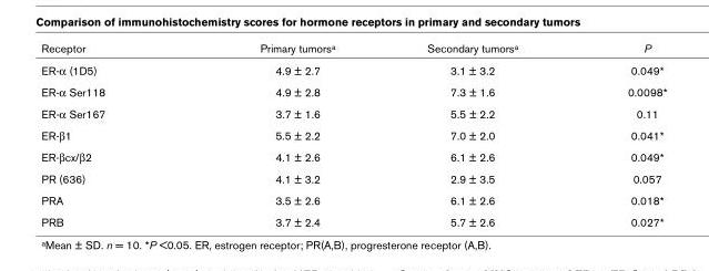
<table><thead><tr><td>Receptor</td><td>Primary tumorsa</td><td>Secondary tumorsa</td><td>P</td></tr></thead><tbody><tr><td>ER-α (1D5)</td><td>4.9 ± 2.7</td><td>3.1 ± 3.2</td><td>0.049*</td></tr><tr><td>ER-α Ser118</td><td>4.9 ± 2.8</td><td>7.3 ± 1.6</td><td>0.0098*</td></tr><tr><td>ER-α Ser167</td><td>3.7 ± 1.6</td><td>5.5 ± 2.2</td><td>0.11</td></tr><tr><td>ER-β1</td><td>5.5 ± 2.2</td><td>7.0 ± 2.0</td><td>0.041*</td></tr><tr><td>ER-βcx/β2</td><td>4.1 ± 2.6</td><td>6.1 ± 2.6</td><td>0.049*</td></tr><tr><td>PR (636)</td><td>4.1 ± 3.2</td><td>2.9 ± 3.5</td><td>0.057</td></tr><tr><td>PRA</td><td>3.5 ± 2.6</td><td>6.1 ± 2.6</td><td>0.018*</td></tr><tr><td>PRB</td><td>3.7 ± 2.4</td><td>5.7 ± 2.6</td><td>0.027*</td></tr></tbody></table>